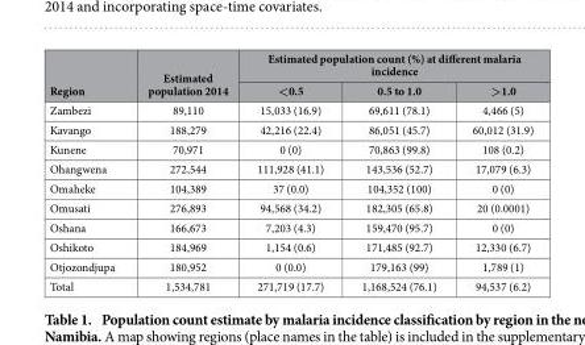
<table><thead><tr><td rowspan="2">Region</td><td rowspan="2">Estimated population 2014</td><td colspan="3">Estimated population count (%) at different malaria incidence</td></tr><tr><td>&lt;0.5</td><td>0.5 to 1.0</td><td>&gt;1.0</td></tr></thead><tbody><tr><td>Zambezi</td><td>89,110</td><td>15,033 (16.9)</td><td>69,611 (78.1)</td><td>4,466 (5)</td></tr><tr><td>Kavango</td><td>188,279</td><td>42,216 (22.4)</td><td>86,051 (45.7)</td><td>60,012 (31.9)</td></tr><tr><td>Kunene</td><td>70,971</td><td>0 (0)</td><td>70,863 (99.8)</td><td>108 (0.2)</td></tr><tr><td>Ohangwena</td><td>272,544</td><td>111,928 (41.1)</td><td>143,536 (52.7)</td><td>17,079 (6.3)</td></tr><tr><td>Omaheke</td><td>104,389</td><td>37 (0.0)</td><td>104,352 (100)</td><td>0 (0)</td></tr><tr><td>Omusati</td><td>276,893</td><td>94,568 (34.2)</td><td>182,305 (65.8)</td><td>20 (0.0001)</td></tr><tr><td>Oshana</td><td>166,673</td><td>7,203 (4.3)</td><td>159,470 (95.7)</td><td>0 (0)</td></tr><tr><td>Oshikoto</td><td>184,969</td><td>1,154 (0.6)</td><td>171,485 (92.7)</td><td>12,330 (6.7)</td></tr><tr><td>Otjozondjupa</td><td>180,952</td><td>0 (0.0)</td><td>179,163 (99)</td><td>1,789 (1)</td></tr><tr><td>Total</td><td>1,534,781</td><td>271,719 (17.7)</td><td>1,168,524 (76.1)</td><td>94,537 (6.2)</td></tr></tbody></table>